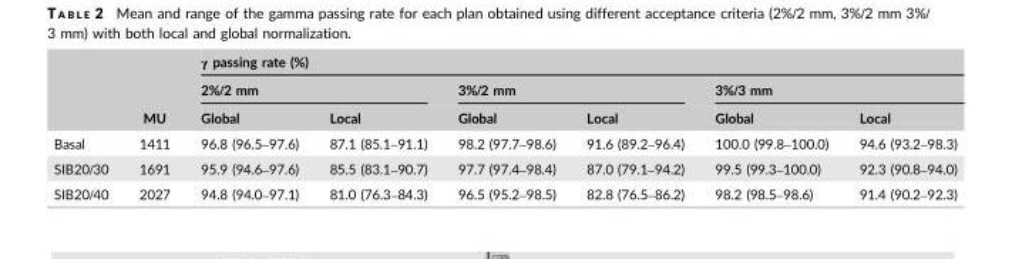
<table><thead><tr><td rowspan="3"></td><td rowspan="3">MU</td><td colspan="6">γ passing rate (%)</td></tr><tr><td colspan="2">2%/2 mm</td><td colspan="2">3%/2 mm</td><td colspan="2">3%/3 mm</td></tr><tr><td>Global</td><td>Local</td><td>Global</td><td>Local</td><td>Global</td><td>Local</td></tr></thead><tbody><tr><td>Basal</td><td>1411</td><td>96.8 (96.5–97.6)</td><td>87.1 (85.1–91.1)</td><td>98.2 (97.7–98.6)</td><td>91.6 (89.2–96.4)</td><td>100.0 (99.8–100.0)</td><td>94.6 (93.2–98.3)</td></tr><tr><td>SIB20/30</td><td>1691</td><td>95.9 (94.6–97.6)</td><td>85.5 (83.1–90.7)</td><td>97.7 (97.4–98.4)</td><td>87.0 (79.1–94.2)</td><td>99.5 (99.3–100.0)</td><td>92.3 (90.8–94.0)</td></tr><tr><td>SIB20/40</td><td>2027</td><td>94.8 (94.0–97.1)</td><td>81.0 (76.3–84.3)</td><td>96.5 (95.2–98.5)</td><td>82.8 (76.5–86.2)</td><td>98.2 (98.5–98.6)</td><td>91.4 (90.2–92.3)</td></tr></tbody></table>